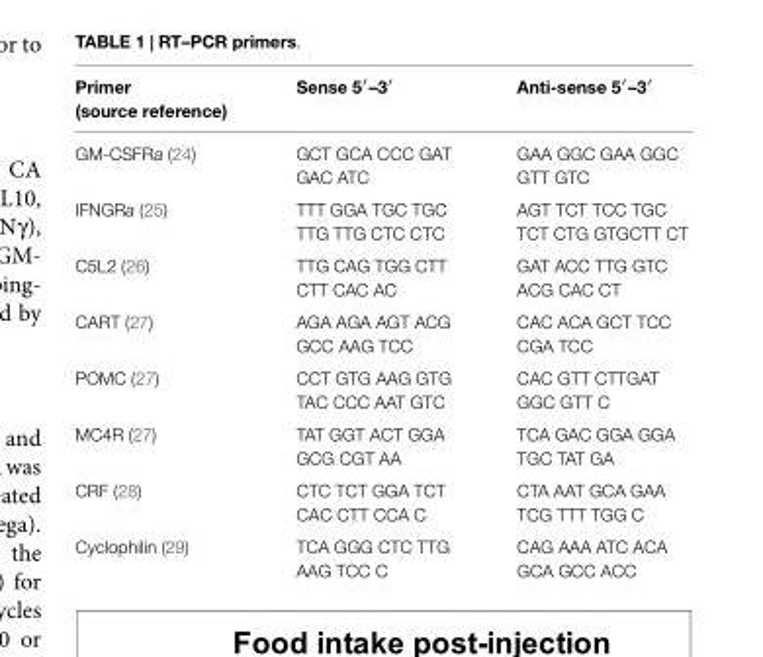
<table><thead><tr><td>Primer (source reference)</td><td>Sense 5′–3′</td><td>Anti-sense 5′–3′</td></tr></thead><tbody><tr><td>GM-CSFRa (24)</td><td>GCT GCA CCC GAT GAC ATC</td><td>GAA GGC GAA GGC GTT GTC</td></tr><tr><td>IFNGRa (25)</td><td>TTT GGA TGC TGC TTG TTG CTC CTC</td><td>AGT TCT TCC TGC TCT CTG GTGCTT CT</td></tr><tr><td>C5L2 (26)</td><td>TTG CAG TGG CTT CTT CAC AC</td><td>GAT ACC TTG GTC ACG CAC CT</td></tr><tr><td>CART (27)</td><td>AGA AGA AGT ACG GCC AAG TCC</td><td>CAC ACA GCT TCC CGA TCC</td></tr><tr><td>POMC (27)</td><td>CCT GTG AAG GTG TAC CCC AAT GTC</td><td>CAC GTT CTTGAT GGC GTT C</td></tr><tr><td>MC4R (27)</td><td>TAT GGT ACT GGA GCG CGT AA</td><td>TCA GAC GGA GGA TGC TAT GA</td></tr><tr><td>CRF (28)</td><td>CTC TCT GGA TCT CAC CTT CCA C</td><td>CTA AAT GCA GAA TCG TTT TGG C</td></tr><tr><td>Cyclophilin (29)</td><td>TCA GGG CTC TTG AAG TCC C</td><td>CAG AAA ATC ACA GCA GCC ACC</td></tr></tbody></table>